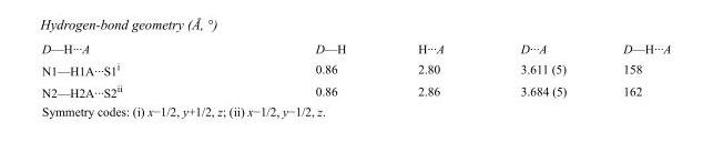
<table><tbody><tr><td>D—H···A</td><td>D—H</td><td>H···A</td><td>D···A</td><td>D—H···A</td></tr><tr><td>N1—H1A···S1<sup>i</sup></td><td>0.86</td><td>2.80</td><td>3.611 (5)</td><td>158</td></tr><tr><td>N2—H2A···S2<sup>ii</sup></td><td>0.86</td><td>2.86</td><td>3.684 (5)</td><td>162</td></tr></tbody></table>